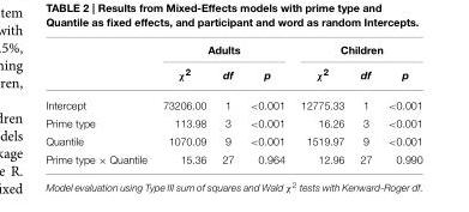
<table><thead><tr><td rowspan="2"></td><td colspan="3">Adults</td><td colspan="3">Children</td></tr><tr><td>χ<sup>2</sup></td><td>df</td><td>p</td><td>χ<sup>2</sup></td><td>df</td><td>p</td></tr></thead><tbody><tr><td>Intercept</td><td>73206.00</td><td>1</td><td>&lt;0.001</td><td>12775.33</td><td>1</td><td>&lt;0.001</td></tr><tr><td>Prime type</td><td>113.98</td><td>3</td><td>&lt;0.001</td><td>16.26</td><td>3</td><td>&lt;0.001</td></tr><tr><td>Quantile</td><td>1070.09</td><td>9</td><td>&lt;0.001</td><td>1519.97</td><td>9</td><td>&lt;0.001</td></tr><tr><td>Prime type × Quantile</td><td>15.36</td><td>27</td><td>0.964</td><td>12.96</td><td>27</td><td>0.990</td></tr></tbody></table>